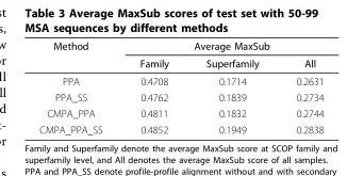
<table><thead><tr><td rowspan="2">Method</td><td colspan="3">Average MaxSub</td></tr><tr><td>Family</td><td>Superfamily</td><td>All</td></tr></thead><tbody><tr><td>PPA</td><td>0.4708</td><td>0.1714</td><td>0.2631</td></tr><tr><td>PPA_SS</td><td>0.4762</td><td>0.1839</td><td>0.2734</td></tr><tr><td>CMPA_PPA</td><td>0.4811</td><td>0.1832</td><td>0.2744</td></tr><tr><td>CMPA_PPA_SS</td><td>0.4852</td><td>0.1949</td><td>0.2838</td></tr></tbody></table>